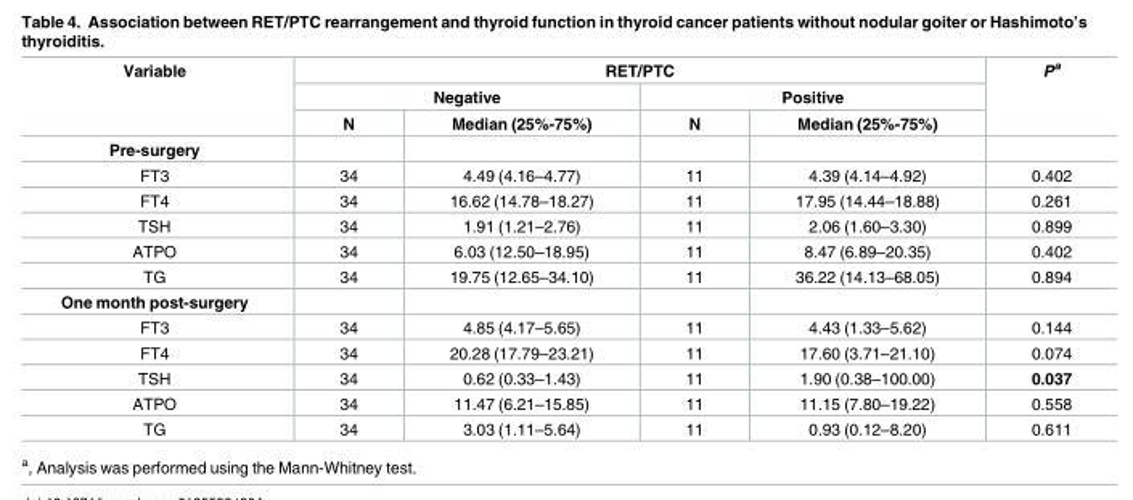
<table><thead><tr><td rowspan="3">Variable</td><td colspan="4">RET/PTC</td><td rowspan="3">P<sup>a</sup></td></tr><tr><td colspan="2">Negative</td><td colspan="2">Positive</td></tr><tr><td>N</td><td>Median (25%-75%)</td><td>N</td><td>Median (25%-75%)</td></tr></thead><tbody><tr><td colspan="6">Pre-surgery</td></tr><tr><td>FT3</td><td>34</td><td>4.49 (4.16–4.77)</td><td>11</td><td>4.39 (4.14–4.92)</td><td>0.402</td></tr><tr><td>FT4</td><td>34</td><td>16.62 (14.78–18.27)</td><td>11</td><td>17.95 (14.44–18.88)</td><td>0.261</td></tr><tr><td>TSH</td><td>34</td><td>1.91 (1.21–2.76)</td><td>11</td><td>2.06 (1.60–3.30)</td><td>0.899</td></tr><tr><td>ATPO</td><td>34</td><td>6.03 (12.50–18.95)</td><td>11</td><td>8.47 (6.89–20.35)</td><td>0.402</td></tr><tr><td>TG</td><td>34</td><td>19.75 (12.65–34.10)</td><td>11</td><td>36.22 (14.13–68.05)</td><td>0.894</td></tr><tr><td colspan="6">One month post-surgery</td></tr><tr><td>FT3</td><td>34</td><td>4.85 (4.17–5.65)</td><td>11</td><td>4.43 (1.33–5.62)</td><td>0.144</td></tr><tr><td>FT4</td><td>34</td><td>20.28 (17.79–23.21)</td><td>11</td><td>17.60 (3.71–21.10)</td><td>0.074</td></tr><tr><td>TSH</td><td>34</td><td>0.62 (0.33–1.43)</td><td>11</td><td>1.90 (0.38–100.00)</td><td>0.037</td></tr><tr><td>ATPO</td><td>34</td><td>11.47 (6.21–15.85)</td><td>11</td><td>11.15 (7.80–19.22)</td><td>0.558</td></tr><tr><td>TG</td><td>34</td><td>3.03 (1.11–5.64)</td><td>11</td><td>0.93 (0.12–8.20)</td><td>0.611</td></tr></tbody></table>